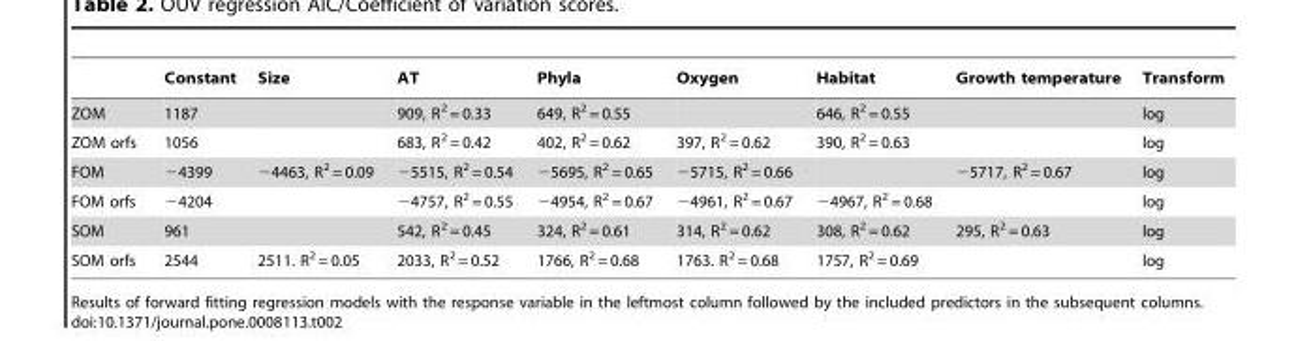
<table><thead><tr><td></td><td>Constant</td><td>Size</td><td>AT</td><td>Phyla</td><td>Oxygen</td><td>Habitat</td><td>Growth temperature</td><td>Transform</td></tr></thead><tbody><tr><td>ZOM</td><td>1187</td><td></td><td>909, R<sup>2</sup> = 0.33</td><td>649, R<sup>2</sup> = 0.55</td><td></td><td>646, R<sup>2</sup> = 0.55</td><td></td><td>log</td></tr><tr><td>ZOM orfs</td><td>1056</td><td></td><td>683, R<sup>2</sup> = 0.42</td><td>402, R<sup>2</sup> = 0.62</td><td>397, R<sup>2</sup> = 0.62</td><td>390, R<sup>2</sup> = 0.63</td><td></td><td>log</td></tr><tr><td>FOM</td><td>−4399</td><td>−4463, R<sup>2</sup> = 0.09</td><td>−5515, R<sup>2</sup> = 0.54</td><td>−5695, R<sup>2</sup> = 0.65</td><td>−5715, R<sup>2</sup> = 0.66</td><td></td><td>−5717, R<sup>2</sup> = 0.67</td><td>log</td></tr><tr><td>FOM orfs</td><td>−4204</td><td></td><td>−4757, R<sup>2</sup> = 0.55</td><td>−4954, R<sup>2</sup> = 0.67</td><td>−4961, R<sup>2</sup> = 0.67</td><td>−4967, R<sup>2</sup> = 0.68</td><td></td><td>log</td></tr><tr><td>SOM</td><td>961</td><td></td><td>542, R<sup>2</sup> = 0.45</td><td>324, R<sup>2</sup> = 0.61</td><td>314, R<sup>2</sup> = 0.62</td><td>308, R<sup>2</sup> = 0.62</td><td>295, R<sup>2</sup> = 0.63</td><td>log</td></tr><tr><td>SOM orfs</td><td>2544</td><td>2511. R<sup>2</sup> = 0.05</td><td>2033, R<sup>2</sup> = 0.52</td><td>1766, R<sup>2</sup> = 0.68</td><td>1763. R<sup>2</sup> = 0.68</td><td>1757, R<sup>2</sup> = 0.69</td><td></td><td>log</td></tr></tbody></table>